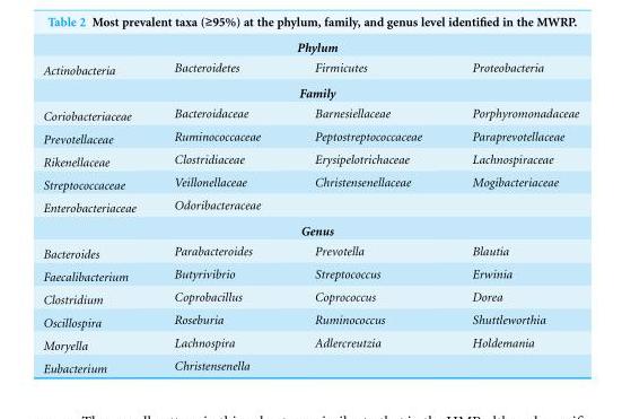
<table><tbody><tr><td colspan="4">Phylum</td></tr><tr><td>Actinobacteria</td><td>Bacteroidetes</td><td>Firmicutes</td><td>Proteobacteria</td></tr><tr><td colspan="4">Family</td></tr><tr><td>Coriobacteriaceae</td><td>Bacteroidaceae</td><td>Barnesiellaceae</td><td>Porphyromonadaceae</td></tr><tr><td>Prevotellaceae</td><td>Ruminococcaceae</td><td>Peptostreptococcaceae</td><td>Paraprevotellaceae</td></tr><tr><td>Rikenellaceae</td><td>Clostridiaceae</td><td>Erysipelotrichaceae</td><td>Lachnospiraceae</td></tr><tr><td>Streptococcaceae</td><td>Veillonellaceae</td><td>Christensenellaceae</td><td>Mogibacteriaceae</td></tr><tr><td>Enterobacteriaceae</td><td>Odoribacteraceae</td><td></td><td></td></tr><tr><td colspan="4">Genus</td></tr><tr><td>Bacteroides</td><td>Parabacteroides</td><td>Prevotella</td><td>Blautia</td></tr><tr><td>Faecalibacterium</td><td>Butyrivibrio</td><td>Streptococcus</td><td>Erwinia</td></tr><tr><td>Clostridium</td><td>Coprobacillus</td><td>Coprococcus</td><td>Dorea</td></tr><tr><td>Oscillospira</td><td>Roseburia</td><td>Ruminococcus</td><td>Shuttleworthia</td></tr><tr><td>Moryella</td><td>Lachnospira</td><td>Adlercreutzia</td><td>Holdemania</td></tr><tr><td>Eubacterium</td><td>Christensenella</td><td></td><td></td></tr></tbody></table>